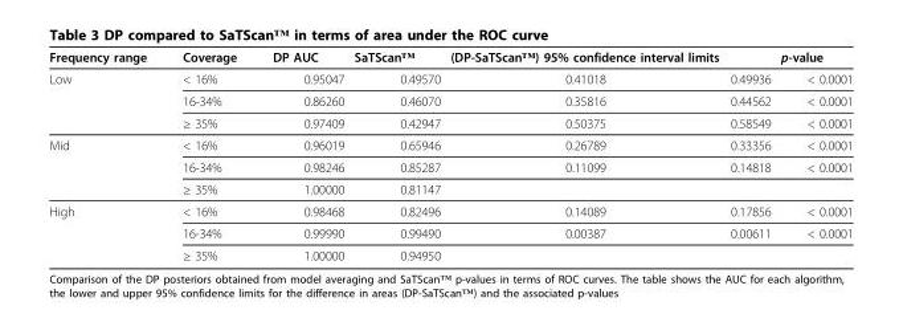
<table><thead><tr><td rowspan="2">Frequency range Low</td><td rowspan="2">Coverage &lt; 16%</td><td rowspan="2">DP AUC 0.95047</td><td rowspan="2">SaTScan™ 0.49570</td><td colspan="2">(DP-SaTScan™) 95% confidence interval limits</td><td rowspan="2">p-value &lt; 0.0001</td></tr><tr><td>0.41018</td><td>0.49936</td></tr></thead><tbody><tr><td></td><td>16-34%</td><td>0.86260</td><td>0.46070</td><td>0.35816</td><td>0.44562</td><td>&lt; 0.0001</td></tr><tr><td></td><td>≥ 35%</td><td>0.97409</td><td>0.42947</td><td>0.50375</td><td>0.58549</td><td>&lt; 0.0001</td></tr><tr><td rowspan="3">Mid</td><td>&lt; 16%</td><td>0.96019</td><td>0.65946</td><td>0.26789</td><td>0.33356</td><td>&lt; 0.0001</td></tr><tr><td>16-34%</td><td>0.98246</td><td>0.85287</td><td>0.11099</td><td>0.14818</td><td>&lt; 0.0001</td></tr><tr><td>≥ 35%</td><td>1.00000</td><td>0.81147</td><td></td><td></td><td></td></tr><tr><td rowspan="3">High</td><td>&lt; 16%</td><td>0.98468</td><td>0.82496</td><td>0.14089</td><td>0.17856</td><td>&lt; 0.0001</td></tr><tr><td>16-34%</td><td>0.99990</td><td>0.99490</td><td>0.00387</td><td>0.00611</td><td>&lt; 0.0001</td></tr><tr><td>≥ 35%</td><td>1.00000</td><td>0.94950</td><td></td><td></td><td></td></tr></tbody></table>